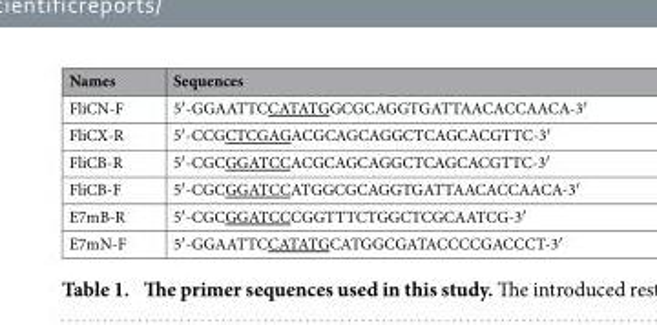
<table><thead><tr><td>Names</td><td>Sequences</td></tr></thead><tbody><tr><td>FliCN-F</td><td>5′ -GGAATTCCATATGGCGCAGGTGATTAACACCAACA-3′</td></tr><tr><td>FliCX-R</td><td>5′ -CCGCTCGAGACGCAGCAGGCTCAGCACGTTC-3′</td></tr><tr><td>FliCB-R</td><td>5′ -CGCGGATCCACGCAGCAGGCTCAGCACGTTC-3′</td></tr><tr><td>FliCB-F</td><td>5′ -CGCGGATCCATGGCGCAGGTGATTAACACCAACA-3′</td></tr><tr><td>E7mB-R</td><td>5′ -CGCGGATCCCGGTTTCTGGCTCGCAATCG-3′</td></tr><tr><td>E7mN-F</td><td>5′ -GGAATTCCATATGCATGGCGATACCCCGACCCT-3′</td></tr></tbody></table>